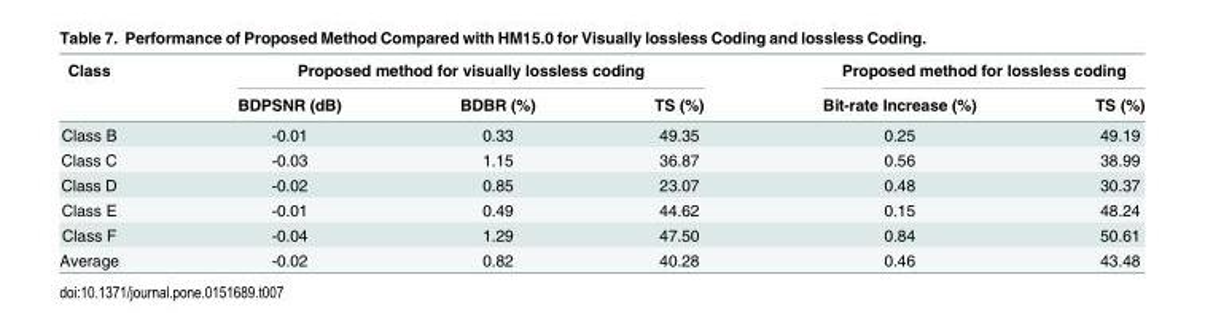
<table><thead><tr><td rowspan="2">Class</td><td colspan="3">Proposed method for visually lossless coding</td><td colspan="2">Proposed method for lossless coding</td></tr><tr><td>BDPSNR (dB)</td><td>BDBR (%)</td><td>TS (%)</td><td>Bit-rate Increase (%)</td><td>TS (%)</td></tr></thead><tbody><tr><td>Class B</td><td>-0.01</td><td>0.33</td><td>49.35</td><td>0.25</td><td>49.19</td></tr><tr><td>Class C</td><td>-0.03</td><td>1.15</td><td>36.87</td><td>0.56</td><td>38.99</td></tr><tr><td>Class D</td><td>-0.02</td><td>0.85</td><td>23.07</td><td>0.48</td><td>30.37</td></tr><tr><td>Class E</td><td>-0.01</td><td>0.49</td><td>44.62</td><td>0.15</td><td>48.24</td></tr><tr><td>Class F</td><td>-0.04</td><td>1.29</td><td>47.50</td><td>0.84</td><td>50.61</td></tr><tr><td>Average</td><td>-0.02</td><td>0.82</td><td>40.28</td><td>0.46</td><td>43.48</td></tr></tbody></table>